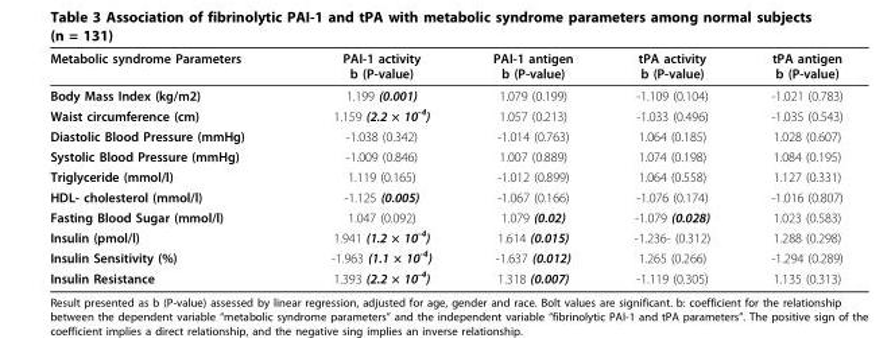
<table><thead><tr><td>Metabolic syndrome Parameters</td><td>PAI-1 activity b (P-value)</td><td>PAI-1 antigen b (P-value)</td><td>tPA activity b (P-value)</td><td>tPA antigen b (P-value)</td></tr></thead><tbody><tr><td>Body Mass Index (kg/m2)</td><td>1.199 (0.001)</td><td>1.079 (0.199)</td><td>-1.109 (0.104)</td><td>-1.021 (0.783)</td></tr><tr><td>Waist circumference (cm)</td><td>1.159 (2.2 × 10<sup>-4</sup>)</td><td>1.057 (0.213)</td><td>-1.033 (0.496)</td><td>-1.035 (0.543)</td></tr><tr><td>Diastolic Blood Pressure (mmHg)</td><td>-1.038 (0.342)</td><td>-1.014 (0.763)</td><td>1.064 (0.185)</td><td>1.028 (0.607)</td></tr><tr><td>Systolic Blood Pressure (mmHg)</td><td>-1.009 (0.846)</td><td>1.007 (0.889)</td><td>1.074 (0.198)</td><td>1.084 (0.195)</td></tr><tr><td>Triglyceride (mmol/l)</td><td>1.119 (0.165)</td><td>-1.012 (0.899)</td><td>1.064 (0.558)</td><td>1.127 (0.331)</td></tr><tr><td>HDL- cholesterol (mmol/l)</td><td>-1.125 (0.005)</td><td>-1.067 (0.166)</td><td>-1.076 (0.174)</td><td>-1.016 (0.807)</td></tr><tr><td>Fasting Blood Sugar (mmol/l)</td><td>1.047 (0.092)</td><td>1.079 (0.02)</td><td>-1.079 (0.028)</td><td>1.023 (0.583)</td></tr><tr><td>Insulin (pmol/l)</td><td>1.941 (1.2 × 10<sup>-4</sup>)</td><td>1.614 (0.015)</td><td>-1.236- (0.312)</td><td>1.288 (0.298)</td></tr><tr><td>Insulin Sensitivity (%)</td><td>-1.963 (1.1 × 10<sup>-4</sup>)</td><td>-1.637 (0.012)</td><td>1.265 (0.266)</td><td>-1.294 (0.289)</td></tr><tr><td>Insulin Resistance</td><td>1.393 (2.2 × 10<sup>-4</sup>)</td><td>1.318 (0.007)</td><td>-1.119 (0.305)</td><td>1.135 (0.313)</td></tr></tbody></table>